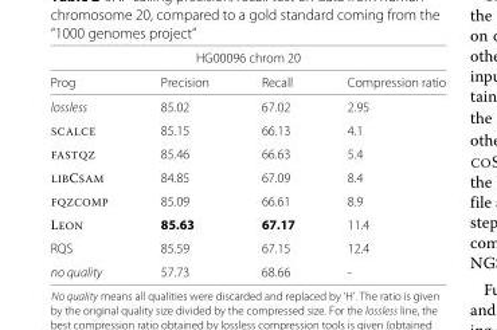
<table><thead><tr><td colspan="4">HG00096 chrom 20</td></tr><tr><td>Prog</td><td>Precision</td><td>Recall</td><td>Compression ratio</td></tr></thead><tbody><tr><td>lossless</td><td>85.02</td><td>67.02</td><td>2.95</td></tr><tr><td>SCALCE</td><td>85.15</td><td>66.13</td><td>4.1</td></tr><tr><td>FASTQZ</td><td>85.46</td><td>66.63</td><td>5.4</td></tr><tr><td>LIBCSAM</td><td>84.85</td><td>67.09</td><td>8.4</td></tr><tr><td>FQZCOMP</td><td>85.09</td><td>66.61</td><td>8.9</td></tr><tr><td>LEON</td><td>85.63</td><td>67.17</td><td>11.4</td></tr><tr><td>RQS</td><td>85.59</td><td>67.15</td><td>12.4</td></tr><tr><td>no quality</td><td>57.73</td><td>68.66</td><td>-</td></tr></tbody></table>